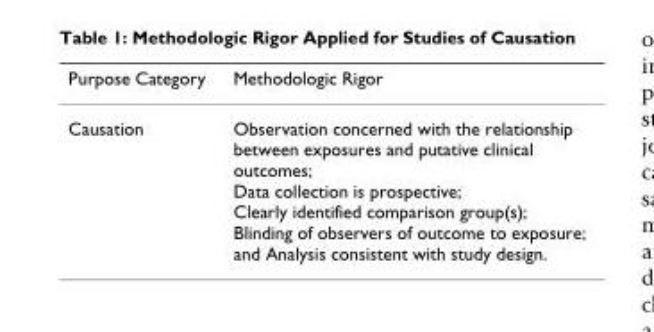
<table><thead><tr><td>Purpose Category</td><td>Methodologic Rigor</td></tr></thead><tbody><tr><td>Causation</td><td>Observation concerned with the relationship between exposures and putative clinical outcomes; Data collection is prospective; Clearly identified comparison group(s); Blinding of observers of outcome to exposure; and Analysis consistent with study design.</td></tr></tbody></table>